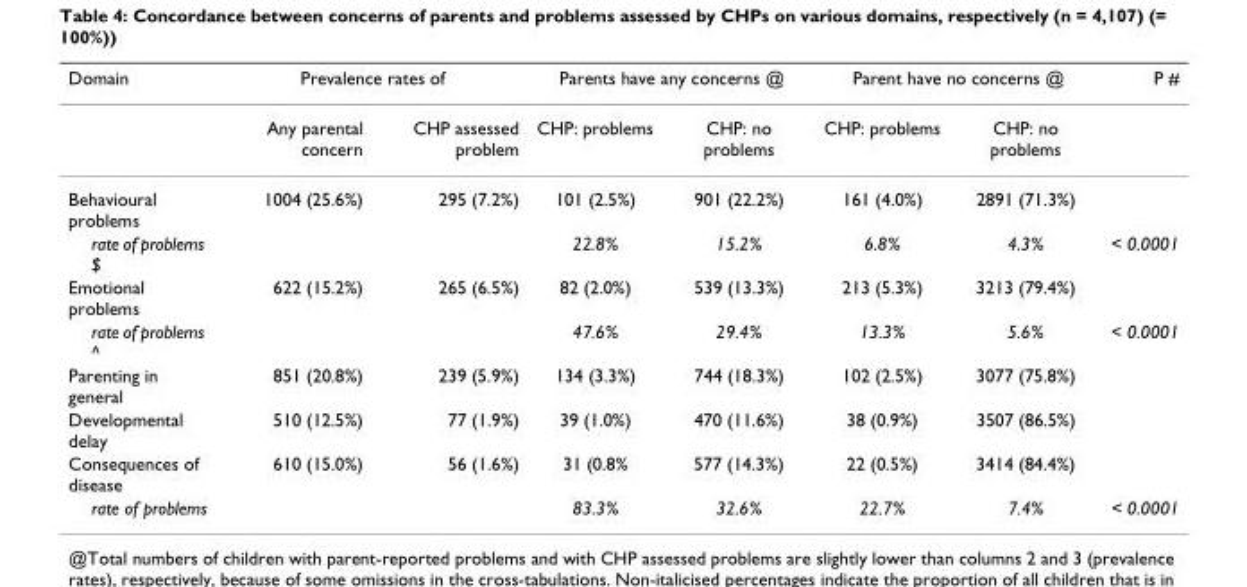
<table><thead><tr><td rowspan="2">Domain</td><td colspan="2">Prevalence rates of</td><td colspan="2">Parents have any concerns @</td><td colspan="2">Parent have no concerns @</td><td rowspan="2">P #</td></tr><tr><td>Any parental concern</td><td>CHP assessed problem</td><td>CHP: problems</td><td>CHP: no problems</td><td>CHP: problems</td><td>CHP: no problems</td></tr></thead><tbody><tr><td>Behavioural problems</td><td>1004 (25.6%)</td><td>295 (7.2%)</td><td>101 (2.5%)</td><td>901 (22.2%)</td><td>161 (4.0%)</td><td>2891 (71.3%)</td><td></td></tr><tr><td>rate of problems $</td><td></td><td></td><td>22.8%</td><td>15.2%</td><td>6.8%</td><td>4.3%</td><td>&lt; 0.0001</td></tr><tr><td>Emotional problems</td><td>622 (15.2%)</td><td>265 (6.5%)</td><td>82 (2.0%)</td><td>539 (13.3%)</td><td>213 (5.3%)</td><td>3213 (79.4%)</td><td></td></tr><tr><td>rate of problems ^</td><td></td><td></td><td>47.6%</td><td>29.4%</td><td>13.3%</td><td>5.6%</td><td>&lt; 0.0001</td></tr><tr><td>Parenting in general</td><td>851 (20.8%)</td><td>239 (5.9%)</td><td>134 (3.3%)</td><td>744 (18.3%)</td><td>102 (2.5%)</td><td>3077 (75.8%)</td><td></td></tr><tr><td>Developmental delay</td><td>510 (12.5%)</td><td>77 (1.9%)</td><td>39 (1.0%)</td><td>470 (11.6%)</td><td>38 (0.9%)</td><td>3507 (86.5%)</td><td></td></tr><tr><td>Consequences of disease</td><td>610 (15.0%)</td><td>56 (1.6%)</td><td>31 (0.8%</td><td>577 (14.3%)</td><td>22 (0.5%)</td><td>3414 (84.4%)</td><td></td></tr><tr><td>rate of problems</td><td></td><td></td><td>83.3%</td><td>32.6%</td><td>22.7%</td><td>7.4%</td><td>&lt; 0.0001</td></tr></tbody></table>